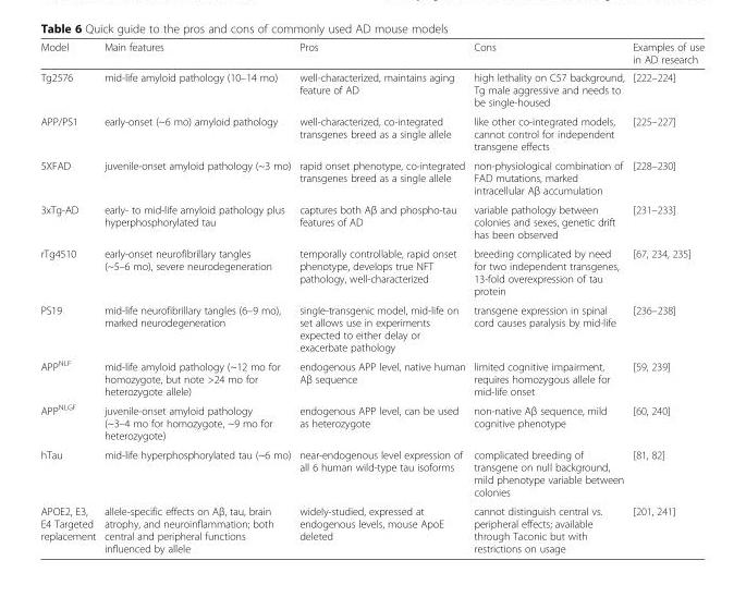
<table><thead><tr><td>Model</td><td>Main features</td><td>Pros</td><td>Cons</td><td>Examples of use in AD research</td></tr></thead><tbody><tr><td>Tg2576</td><td>mid-life amyloid pathology (10–14 mo)</td><td>well-characterized, maintains aging feature of AD</td><td>high lethality on C57 background, Tg male aggressive and needs to be single-housed</td><td>[222–224]</td></tr><tr><td>APP/PS1</td><td>early-onset (~6 mo) amyloid pathology</td><td>well-characterized, co-integrated transgenes breed as a single allele</td><td>like other co-integrated models, cannot control for independent transgene effects</td><td>[225–227]</td></tr><tr><td>5XFAD</td><td>juvenile-onset amyloid pathology (~3 mo)</td><td>rapid onset phenotype, co-integrated transgenes breed as a single allele</td><td>non-physiological combination of FAD mutations, marked intracellular Aβ accumulation</td><td>[228–230]</td></tr><tr><td>3xTg-AD</td><td>early- to mid-life amyloid pathology plus hyperphosphorylated tau</td><td>captures both Aβ and phospho-tau features of AD</td><td>variable pathology between colonies and sexes, genetic drift has been observed</td><td>[231–233]</td></tr><tr><td>rTg4510</td><td>early-onset neurofibrillary tangles (~5–6 mo), severe neurodegeneration</td><td>temporally controllable, rapid onset phenotype, develops true NFT pathology, well-characterized</td><td>breeding complicated by need for two independent transgenes, 13-fold overexpression of tau protein</td><td>[67, 234, 235]</td></tr><tr><td>PS19</td><td>mid-life neurofibrillary tangles (6–9 mo), marked neurodegeneration</td><td>single-transgenic model, mid-life on set allows use in experiments expected to either delay or exacerbate pathology</td><td>transgene expression in spinal cord causes paralysis by mid-life</td><td>[236–238]</td></tr><tr><td>APP<sup>NLF</sup></td><td>mid-life amyloid pathology (~12 mo for homozygote, but note &gt;24 mo for heterozygote allele)</td><td>endogenous APP level, native human Aβ sequence</td><td>limited cognitive impairment, requires homozygous allele for mid-life onset</td><td>[59, 239]</td></tr><tr><td>APP<sup>NLGF</sup></td><td>juvenile-onset amyloid pathology (~3–4 mo for homozygote, ~9 mo for heterozygote)</td><td>endogenous APP level, can be used as heterozygote</td><td>non-native Aβ sequence, mild cognitive phenotype</td><td>[60, 240]</td></tr><tr><td>hTau</td><td>mid-life hyperphosphorylated tau (~6 mo)</td><td>near-endogenous level expression of all 6 human wild-type tau isoforms</td><td>complicated breeding of transgene on null background, mild phenotype variable between colonies</td><td>[81, 82]</td></tr><tr><td>APOE2, E3, E4 Targeted replacement</td><td>allele-specific effects on Aβ, tau, brain atrophy, and neuroinflammation; both central and peripheral functions influenced by allele</td><td>widely-studied, expressed at endogenous levels, mouse ApoE deleted</td><td>cannot distinguish central vs. peripheral effects; available through Taconic but with restrictions on usage</td><td>[201, 241]</td></tr></tbody></table>